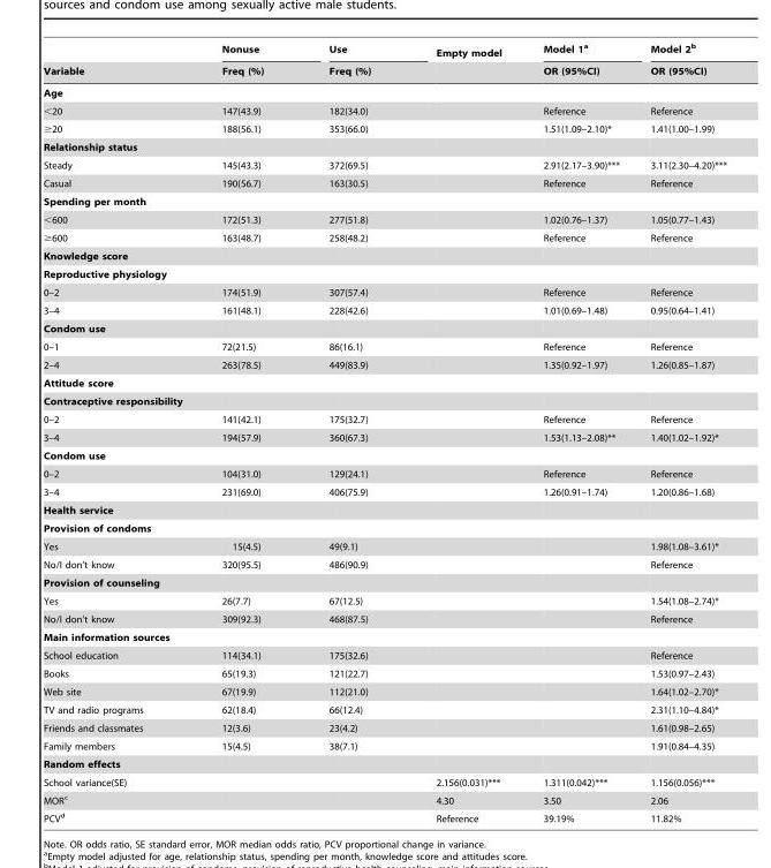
<table><thead><tr><td rowspan="2">Variable</td><td rowspan="2">Nonuse Freq (%)</td><td rowspan="2">Use Freq (%)</td><td rowspan="2">Empty model</td><td rowspan="2">Model 1<sup>a</sup> OR (95%CI)</td><td rowspan="2">Model 2<sup>b</sup> OR (95%CI)</td></tr><tr></tr></thead><tbody><tr><td colspan="6">Age</td></tr><tr><td>&lt;20</td><td>147(43.9)</td><td>182(34.0)</td><td></td><td>Reference</td><td>Reference</td></tr><tr><td>≥20</td><td>188(56.1)</td><td>353(66.0)</td><td></td><td>1.51(1.09–2.10)*</td><td>1.41(1.00–1.99)</td></tr><tr><td colspan="6">Relationship status</td></tr><tr><td>Steady</td><td>145(43.3)</td><td>372(69.5)</td><td></td><td>2.91(2.17–3.90)***</td><td>3.11(2.30–4.20)***</td></tr><tr><td>Casual</td><td>190(56.7)</td><td>163(30.5)</td><td></td><td>Reference</td><td>Reference</td></tr><tr><td colspan="6">Spending per month</td></tr><tr><td>&lt;600</td><td>172(51.3)</td><td>277(51.8)</td><td></td><td>1.02(0.76–1.37)</td><td>1.05(0.77–1.43)</td></tr><tr><td>≥600</td><td>163(48.7)</td><td>258(48.2)</td><td></td><td>Reference</td><td>Reference</td></tr><tr><td colspan="6">Knowledge score</td></tr><tr><td colspan="6">Reproductive physiology</td></tr><tr><td>0–2</td><td>174(51.9)</td><td>307(57.4)</td><td></td><td>Reference</td><td>Reference</td></tr><tr><td>3–4</td><td>161(48.1)</td><td>228(42.6)</td><td></td><td>1.01(0.69–1.48)</td><td>0.95(0.64–1.41)</td></tr><tr><td colspan="6">Condom use</td></tr><tr><td>0–1</td><td>72(21.5)</td><td>86(16.1)</td><td></td><td>Reference</td><td>Reference</td></tr><tr><td>2–4</td><td>263(78.5)</td><td>449(83.9)</td><td></td><td>1.35(0.92–1.97)</td><td>1.26(0.85–1.87)</td></tr><tr><td colspan="6">Attitude score</td></tr><tr><td colspan="6">Contraceptive responsibility</td></tr><tr><td>0–2</td><td>141(42.1)</td><td>175(32.7)</td><td></td><td>Reference</td><td>Reference</td></tr><tr><td>3–4</td><td>194(57.9)</td><td>360(67.3)</td><td></td><td>1.53(1.13–2.08)**</td><td>1.40(1.02–1.92)*</td></tr><tr><td colspan="6">Condom use</td></tr><tr><td>0–2</td><td>104(31.0)</td><td>129(24.1)</td><td></td><td>Reference</td><td>Reference</td></tr><tr><td>3–4</td><td>231(69.0)</td><td>406(75.9)</td><td></td><td>1.26(0.91–1.74)</td><td>1.20(0.86–1.68)</td></tr><tr><td colspan="6">Health service</td></tr><tr><td colspan="6">Provision of condoms</td></tr><tr><td>Yes</td><td>15(4.5)</td><td>49(9.1)</td><td></td><td></td><td>1.98(1.08–3.61)*</td></tr><tr><td>No/I don’t know</td><td>320(95.5)</td><td>486(90.9)</td><td></td><td></td><td>Reference</td></tr><tr><td colspan="6">Provision of counseling</td></tr><tr><td>Yes</td><td>26(7.7)</td><td>67(12.5)</td><td></td><td></td><td>1.54(1.08–2.74)*</td></tr><tr><td>No/I don’t know</td><td>309(92.3)</td><td>468(87.5)</td><td></td><td></td><td>Reference</td></tr><tr><td colspan="6">Main information sources</td></tr><tr><td>School education</td><td>114(34.1)</td><td>175(32.6)</td><td></td><td></td><td>Reference</td></tr><tr><td>Books</td><td>65(19.3)</td><td>121(22.7)</td><td></td><td></td><td>1.53(0.97–2.43)</td></tr><tr><td>Web site</td><td>67(19.9)</td><td>112(21.0)</td><td></td><td></td><td>1.64(1.02–2.70)*</td></tr><tr><td>TV and radio programs</td><td>62(18.4)</td><td>66(12.4)</td><td></td><td></td><td>2.31(1.10–4.84)*</td></tr><tr><td>Friends and classmates</td><td>12(3.6)</td><td>23(4.2)</td><td></td><td></td><td>1.61(0.98–2.65)</td></tr><tr><td>Family members</td><td>15(4.5)</td><td>38(7.1)</td><td></td><td></td><td>1.91(0.84–4.35)</td></tr><tr><td colspan="6">Random effects</td></tr><tr><td>School variance(SE)</td><td></td><td></td><td>2.156(0.031)***</td><td>1.311(0.042)***</td><td>1.156(0.056)***</td></tr><tr><td>MOR<sup>c</sup></td><td></td><td></td><td>4.30</td><td>3.50</td><td>2.06</td></tr><tr><td>PCV<sup>d</sup></td><td></td><td></td><td>Reference</td><td>39.19%</td><td>11.82%</td></tr></tbody></table>